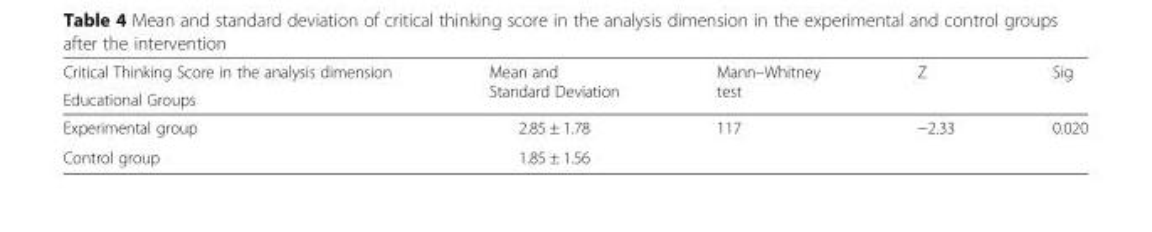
<table><thead><tr><td rowspan="2">Critical Thinking Score in the analysis dimension Educational Groups</td><td rowspan="2">Mean and Standard Deviation</td><td rowspan="2">Mann–Whitney test</td><td rowspan="2">Z</td><td rowspan="2">Sig</td></tr><tr></tr></thead><tbody><tr><td>Experimental group</td><td>2.85 ± 1.78</td><td rowspan="2">117</td><td rowspan="2">−2.33</td><td rowspan="2">0.020</td></tr><tr><td>Control group</td><td>1.85 ± 1.56</td></tr></tbody></table>